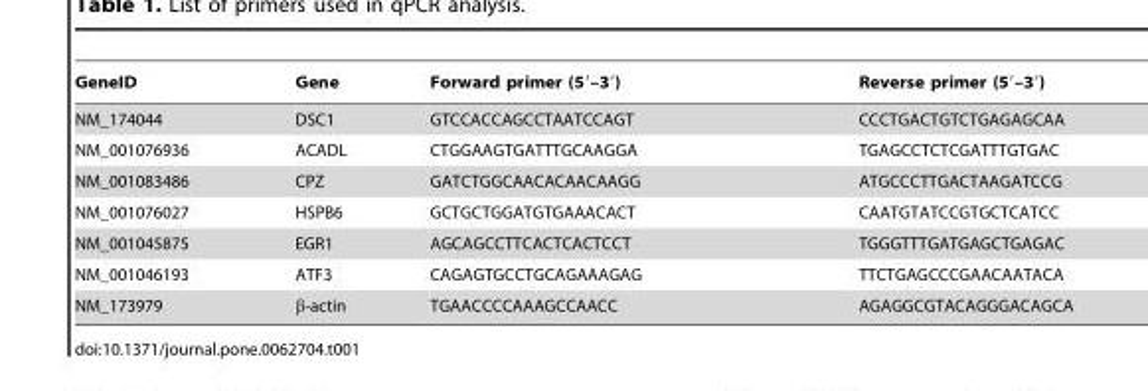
<table><thead><tr><td>GeneID</td><td>Gene</td><td>Forward primer (5′–3′)</td><td>Reverse primer (5′–3′)</td></tr></thead><tbody><tr><td>NM_174044</td><td>DSC1</td><td>GTCCACCAGCCTAATCCAGT</td><td>CCCTGACTGTCTGAGAGCAA</td></tr><tr><td>NM_001076936</td><td>ACADL</td><td>CTGGAAGTGATTTGCAAGGA</td><td>TGAGCCTCTCGATTTGTGAC</td></tr><tr><td>NM_001083486</td><td>CPZ</td><td>GATCTGGCAACACAACAAGG</td><td>ATGCCCTTGACTAAGATCCG</td></tr><tr><td>NM_001076027</td><td>HSPB6</td><td>GCTGCTGGATGTGAAACACT</td><td>CAATGTATCCGTGCTCATCC</td></tr><tr><td>NM_001045875</td><td>EGR1</td><td>AGCAGCCTTCACTCACTCCT</td><td>TGGGTTTGATGAGCTGAGAC</td></tr><tr><td>NM_001046193</td><td>ATF3</td><td>CAGAGTGCCTGCAGAAAGAG</td><td>TTCTGAGCCCGAACAATACA</td></tr><tr><td>NM_173979</td><td>β-actin</td><td>TGAACCCCAAAGCCAACC</td><td>AGAGGCGTACAGGGACAGCA</td></tr></tbody></table>